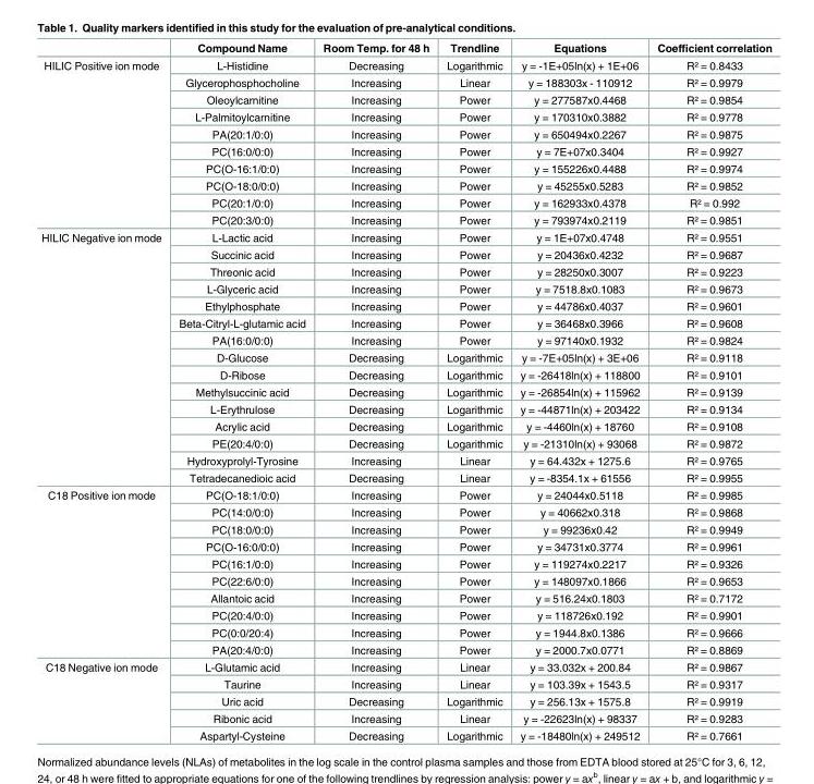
<table><thead><tr><td></td><td>Compound Name</td><td>Room Temp. for 48 h</td><td>Trendline</td><td>Equations</td><td>Coefficient correlation</td></tr></thead><tbody><tr><td rowspan="10">HILIC Positive ion mode</td><td>L-Histidine</td><td>Decreasing</td><td>Logarithmic</td><td>y = -1E+05ln(x) + 1E+06</td><td>R² = 0.8433</td></tr><tr><td>Glycerophosphocholine</td><td>Increasing</td><td>Linear</td><td>y = 188303x - 110912</td><td>R² = 0.9979</td></tr><tr><td>Oleoylcarnitine</td><td>Increasing</td><td>Power</td><td>y = 277587x0.4468</td><td>R² = 0.9854</td></tr><tr><td>L-Palmitoylcarnitine</td><td>Increasing</td><td>Power</td><td>y = 170310x0.3882</td><td>R² = 0.9778</td></tr><tr><td>PA(20:1/0:0)</td><td>Increasing</td><td>Power</td><td>y = 650494x0.2267</td><td>R² = 0.9875</td></tr><tr><td>PC(16:0/0:0)</td><td>Increasing</td><td>Power</td><td>y = 7E+07x0.3404</td><td>R² = 0.9927</td></tr><tr><td>PC(O-16:1/0:0)</td><td>Increasing</td><td>Power</td><td>y = 155226x0.4488</td><td>R² = 0.9974</td></tr><tr><td>PC(O-18:0/0:0)</td><td>Increasing</td><td>Power</td><td>y = 45255x0.5283</td><td>R² = 0.9852</td></tr><tr><td>PC(20:1/0:0)</td><td>Increasing</td><td>Power</td><td>y = 162933x0.4378</td><td>R² = 0.992</td></tr><tr><td>PC(20:3/0:0)</td><td>Increasing</td><td>Power</td><td>y = 793974x0.2119</td><td>R² = 0.9851</td></tr><tr><td rowspan="15">HILIC Negative ion mode</td><td>L-Lactic acid</td><td>Increasing</td><td>Power</td><td>y = 1E+07x0.4748</td><td>R² = 0.9551</td></tr><tr><td>Succinic acid</td><td>Increasing</td><td>Power</td><td>y = 20436x0.4232</td><td>R² = 0.9687</td></tr><tr><td>Threonic acid</td><td>Increasing</td><td>Power</td><td>y = 28250x0.3007</td><td>R² = 0.9223</td></tr><tr><td>L-Glyceric acid</td><td>Increasing</td><td>Power</td><td>y = 7518.8x0.1083</td><td>R² = 0.9673</td></tr><tr><td>Ethylphosphate</td><td>Increasing</td><td>Power</td><td>y = 44786x0.4037</td><td>R² = 0.9601</td></tr><tr><td>Beta-Citryl-L-glutamic acid</td><td>Increasing</td><td>Power</td><td>y = 36468x0.3966</td><td>R² = 0.9608</td></tr><tr><td>PA(16:0/0:0)</td><td>Increasing</td><td>Power</td><td>y = 97140x0.1932</td><td>R² = 0.9824</td></tr><tr><td>D-Glucose</td><td>Decreasing</td><td>Logarithmic</td><td>y = -7E+05ln(x) + 3E+06</td><td>R² = 0.9118</td></tr><tr><td>D-Ribose</td><td>Decreasing</td><td>Logarithmic</td><td>y = -26418ln(x) + 118800</td><td>R² = 0.9101</td></tr><tr><td>Methylsuccinic acid</td><td>Decreasing</td><td>Logarithmic</td><td>y = -26854ln(x) + 115962</td><td>R² = 0.9139</td></tr><tr><td>L-Erythrulose</td><td>Decreasing</td><td>Logarithmic</td><td>y = -44871ln(x) + 203422</td><td>R² = 0.9134</td></tr><tr><td>Acrylic acid</td><td>Decreasing</td><td>Logarithmic</td><td>y = -4460ln(x) + 18760</td><td>R² = 0.9108</td></tr><tr><td>PE(20:4/0:0)</td><td>Decreasing</td><td>Logarithmic</td><td>y = -21310ln(x) + 93068</td><td>R² = 0.9872</td></tr><tr><td>Hydroxyprolyl-Tyrosine</td><td>Increasing</td><td>Linear</td><td>y = 64.432x + 1275.6</td><td>R² = 0.9765</td></tr><tr><td>Tetradecanedioic acid</td><td>Decreasing</td><td>Linear</td><td>y = -8354.1x + 61556</td><td>R² = 0.9955</td></tr><tr><td rowspan="10">C18 Positive ion mode</td><td>PC(O-18:1/0:0)</td><td>Increasing</td><td>Power</td><td>y = 24044x0.5118</td><td>R² = 0.9985</td></tr><tr><td>PC(14:0/0:0)</td><td>Increasing</td><td>Power</td><td>y = 40662x0.318</td><td>R² = 0.9868</td></tr><tr><td>PC(18:0/0:0)</td><td>Increasing</td><td>Power</td><td>y = 99236x0.42</td><td>R² = 0.9949</td></tr><tr><td>PC(O-16:0/0:0)</td><td>Increasing</td><td>Power</td><td>y = 34731x0.3774</td><td>R² = 0.9961</td></tr><tr><td>PC(16:1/0:0)</td><td>Increasing</td><td>Power</td><td>y = 119274x0.2217</td><td>R² = 0.9326</td></tr><tr><td>PC(22:6/0:0)</td><td>Increasing</td><td>Power</td><td>y = 148097x0.1866</td><td>R² = 0.9653</td></tr><tr><td>Allantoic acid</td><td>Increasing</td><td>Power</td><td>y = 516.24x0.1803</td><td>R² = 0.7172</td></tr><tr><td>PC(20:4/0:0)</td><td>Increasing</td><td>Power</td><td>y = 118726x0.192</td><td>R² = 0.9901</td></tr><tr><td>PC(0:0/20:4)</td><td>Increasing</td><td>Power</td><td>y = 1944.8x0.1386</td><td>R² = 0.9666</td></tr><tr><td>PA(20:4/0:0)</td><td>Increasing</td><td>Power</td><td>y = 2000.7x0.0771</td><td>R² = 0.8869</td></tr><tr><td rowspan="5">C18 Negative ion mode</td><td>L-Glutamic acid</td><td>Increasing</td><td>Linear</td><td>y = 33.032x + 200.84</td><td>R² = 0.9867</td></tr><tr><td>Taurine</td><td>Increasing</td><td>Linear</td><td>y = 103.39x + 1543.5</td><td>R² = 0.9317</td></tr><tr><td>Uric acid</td><td>Decreasing</td><td>Logarithmic</td><td>y = 256.13x + 1575.8</td><td>R² = 0.9919</td></tr><tr><td>Ribonic acid</td><td>Increasing</td><td>Linear</td><td>y = -22623ln(x) + 98337</td><td>R² = 0.9283</td></tr><tr><td>Aspartyl-Cysteine</td><td>Decreasing</td><td>Logarithmic</td><td>y = -18480ln(x) + 249512</td><td>R² = 0.7661</td></tr></tbody></table>